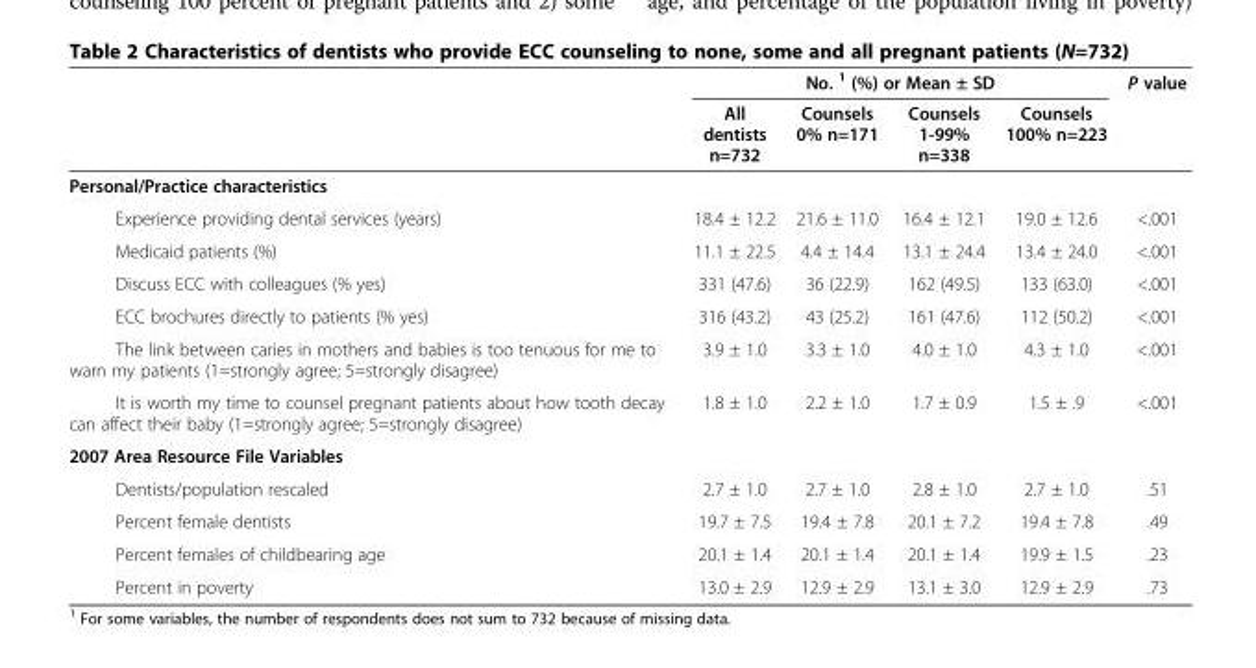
<table><thead><tr><td rowspan="2"></td><td colspan="4">No. <sup>1</sup> (%) or Mean ± SD</td><td rowspan="2">P value</td></tr><tr><td>All dentists n=732</td><td>Counsels 0% n=171</td><td>Counsels 1-99% n=338</td><td>Counsels 100% n=223</td></tr></thead><tbody><tr><td colspan="6">Personal/Practice characteristics</td></tr><tr><td>Experience providing dental services (years)</td><td>18.4 ± 12.2</td><td>21.6 ± 11.0</td><td>16.4 ± 12.1</td><td>19.0 ± 12.6</td><td>&lt;.001</td></tr><tr><td>Medicaid patients (%)</td><td>11.1 ± 22.5</td><td>4.4 ± 14.4</td><td>13.1 ± 24.4</td><td>13.4 ± 24.0</td><td>&lt;.001</td></tr><tr><td>Discuss ECC with colleagues (% yes)</td><td>331 (47.6)</td><td>36 (22.9)</td><td>162 (49.5)</td><td>133 (63.0)</td><td>&lt;.001</td></tr><tr><td>ECC brochures directly to patients (% yes)</td><td>316 (43.2)</td><td>43 (25.2)</td><td>161 (47.6)</td><td>112 (50.2)</td><td>&lt;.001</td></tr><tr><td>The link between caries in mothers and babies is too tenuous for me to warn my patients (1=strongly agree; 5=strongly disagree)</td><td>3.9 ± 1.0</td><td>3.3 ± 1.0</td><td>4.0 ± 1.0</td><td>4.3 ± 1.0</td><td>&lt;.001</td></tr><tr><td>It is worth my time to counsel pregnant patients about how tooth decay can affect their baby (1=strongly agree; 5=strongly disagree)</td><td>1.8 ± 1.0</td><td>2.2 ± 1.0</td><td>1.7 ± 0.9</td><td>1.5 ± .9</td><td>&lt;.001</td></tr><tr><td colspan="6">2007 Area Resource File Variables</td></tr><tr><td>Dentists/population rescaled</td><td>2.7 ± 1.0</td><td>2.7 ± 1.0</td><td>2.8 ± 1.0</td><td>2.7 ± 1.0</td><td>.51</td></tr><tr><td>Percent female dentists</td><td>19.7 ± 7.5</td><td>19.4 ± 7.8</td><td>20.1 ± 7.2</td><td>19.4 ± 7.8</td><td>.49</td></tr><tr><td>Percent females of childbearing age</td><td>20.1 ± 1.4</td><td>20.1 ± 1.4</td><td>20.1 ± 1.4</td><td>19.9 ± 1.5</td><td>.23</td></tr><tr><td>Percent in poverty</td><td>13.0 ± 2.9</td><td>12.9 ± 2.9</td><td>13.1 ± 3.0</td><td>12.9 ± 2.9</td><td>.73</td></tr></tbody></table>